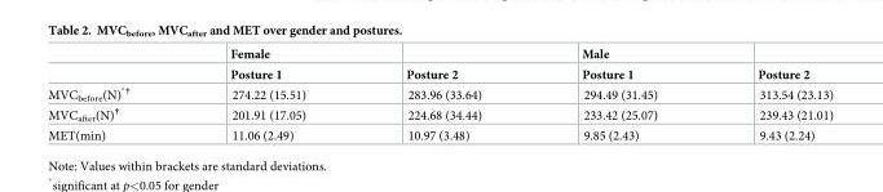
<table><thead><tr><td rowspan="2"></td><td rowspan="2">Female Posture 1</td><td rowspan="2">Posture 2</td><td rowspan="2">Male Posture 1</td><td rowspan="2">Posture 2</td></tr><tr></tr></thead><tbody><tr><td>MVC<sub>before</sub>(N) <sup>*†</sup></td><td>274.22 (15.51)</td><td>283.96 (33.64)</td><td>294.49 (31.45)</td><td>313.54 (23.13)</td></tr><tr><td>MVC<sub>after</sub>(N)<sup>†</sup></td><td>201.91 (17.05)</td><td>224.68 (34.44)</td><td>233.42 (25.07)</td><td>239.43 (21.01)</td></tr><tr><td>MET(min)</td><td>11.06 (2.49)</td><td>10.97 (3.48)</td><td>9.85 (2.43)</td><td>9.43 (2.24)</td></tr></tbody></table>